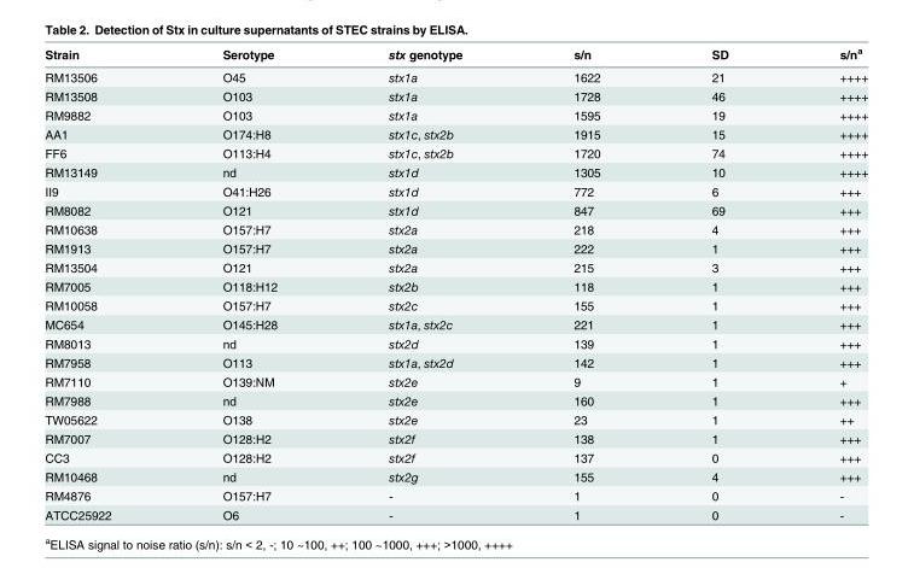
<table><thead><tr><td>Strain</td><td>Serotype</td><td>stx genotype</td><td>s/n</td><td>SD</td><td>s/n<sup>a</sup></td></tr></thead><tbody><tr><td>RM13506</td><td>O45</td><td>stx1a</td><td>1622</td><td>21</td><td>++++</td></tr><tr><td>RM13508</td><td>O103</td><td>stx1a</td><td>1728</td><td>46</td><td>++++</td></tr><tr><td>RM9882</td><td>O103</td><td>stx1a</td><td>1595</td><td>19</td><td>++++</td></tr><tr><td>AA1</td><td>O174:H8</td><td>stx1c, stx2b</td><td>1915</td><td>15</td><td>++++</td></tr><tr><td>FF6</td><td>O113:H4</td><td>stx1c, stx2b</td><td>1720</td><td>74</td><td>++++</td></tr><tr><td>RM13149</td><td>nd</td><td>stx1d</td><td>1305</td><td>10</td><td>++++</td></tr><tr><td>II9</td><td>O41:H26</td><td>stx1d</td><td>772</td><td>6</td><td>+++</td></tr><tr><td>RM8082</td><td>O121</td><td>stx1d</td><td>847</td><td>69</td><td>+++</td></tr><tr><td>RM10638</td><td>O157:H7</td><td>stx2a</td><td>218</td><td>4</td><td>+++</td></tr><tr><td>RM1913</td><td>O157:H7</td><td>stx2a</td><td>222</td><td>1</td><td>+++</td></tr><tr><td>RM13504</td><td>O121</td><td>stx2a</td><td>215</td><td>3</td><td>+++</td></tr><tr><td>RM7005</td><td>O118:H12</td><td>stx2b</td><td>118</td><td>1</td><td>+++</td></tr><tr><td>RM10058</td><td>O157:H7</td><td>stx2c</td><td>155</td><td>1</td><td>+++</td></tr><tr><td>MC654</td><td>O145:H28</td><td>stx1a, stx2c</td><td>221</td><td>1</td><td>+++</td></tr><tr><td>RM8013</td><td>nd</td><td>stx2d</td><td>139</td><td>1</td><td>+++</td></tr><tr><td>RM7958</td><td>O113</td><td>stx1a, stx2d</td><td>142</td><td>1</td><td>+++</td></tr><tr><td>RM7110</td><td>O139:NM</td><td>stx2e</td><td>9</td><td>1</td><td>+</td></tr><tr><td>RM7988</td><td>nd</td><td>stx2e</td><td>160</td><td>1</td><td>+++</td></tr><tr><td>TW05622</td><td>O138</td><td>stx2e</td><td>23</td><td>1</td><td>++</td></tr><tr><td>RM7007</td><td>O128:H2</td><td>stx2f</td><td>138</td><td>1</td><td>+++</td></tr><tr><td>CC3</td><td>O128:H2</td><td>stx2f</td><td>137</td><td>0</td><td>+++</td></tr><tr><td>RM10468</td><td>nd</td><td>stx2g</td><td>155</td><td>4</td><td>+++</td></tr><tr><td>RM4876</td><td>O157:H7</td><td>-</td><td>1</td><td>0</td><td>-</td></tr><tr><td>ATCC25922</td><td>O6</td><td>-</td><td>1</td><td>0</td><td>-</td></tr></tbody></table>